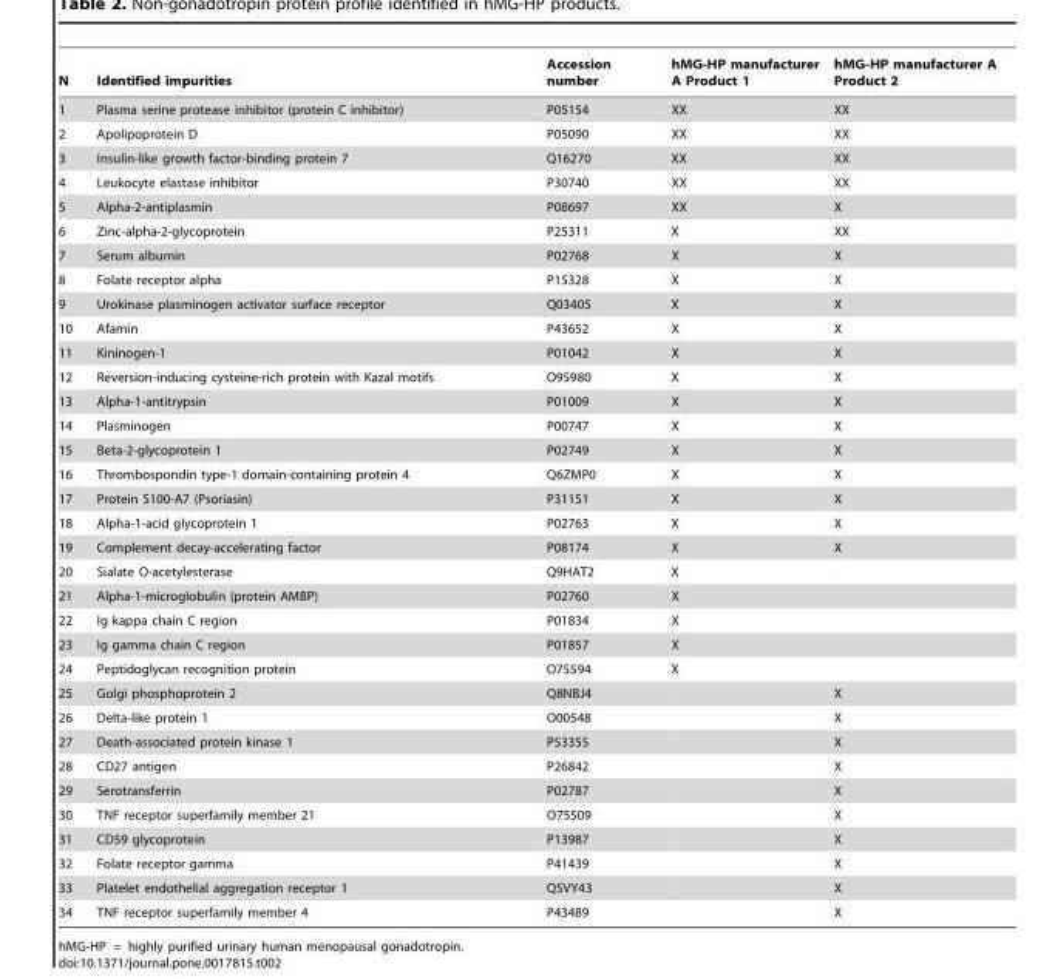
<table><thead><tr><td>N</td><td>Identified impurities</td><td>Accession number</td><td>hMG-HP manufacturer A Product 1</td><td>hMG-HP manufacturer A Product 2</td></tr></thead><tbody><tr><td>1</td><td>Plasma serine protease inhibitor (protein C inhibitor)</td><td>P05154</td><td>XX</td><td>XX</td></tr><tr><td>2</td><td>Apolipoprotein D</td><td>P05090</td><td>XX</td><td>XX</td></tr><tr><td>3</td><td>Insulin-like growth factor-binding protein 7</td><td>Q16270</td><td>XX</td><td>XX</td></tr><tr><td>4</td><td>Leukocyte elastase inhibitor</td><td>P30740</td><td>XX</td><td>XX</td></tr><tr><td>5</td><td>Alpha-2-antiplasmin</td><td>P08697</td><td>XX</td><td>X</td></tr><tr><td>6</td><td>Zinc-alpha-2-glycoprotein</td><td>P25311</td><td>X</td><td>XX</td></tr><tr><td>7</td><td>Serum albumin</td><td>P02768</td><td>X</td><td>X</td></tr><tr><td>8</td><td>Folate receptor alpha</td><td>P15328</td><td>X</td><td>X</td></tr><tr><td>9</td><td>Urokinase plasminogen activator surface receptor</td><td>Q03405</td><td>X</td><td>X</td></tr><tr><td>10</td><td>Afamin</td><td>P43652</td><td>X</td><td>X</td></tr><tr><td>11</td><td>Kininogen-1</td><td>P01042</td><td>X</td><td>X</td></tr><tr><td>12</td><td>Reversion-inducing cysteine-rich protein with Kazal motifs</td><td>O95980</td><td>X</td><td>X</td></tr><tr><td>13</td><td>Alpha-1-antitrypsin</td><td>P01009</td><td>X</td><td>X</td></tr><tr><td>14</td><td>Plasminogen</td><td>P00747</td><td>X</td><td>X</td></tr><tr><td>15</td><td>Beta-2-glycoprotein 1</td><td>P02749</td><td>X</td><td>X</td></tr><tr><td>16</td><td>Thrombospondin type-1 domain-containing protein 4</td><td>Q6ZMP0</td><td>X</td><td>X</td></tr><tr><td>17</td><td>Protein S100-A7 (Psoriasin)</td><td>P31151</td><td>X</td><td>X</td></tr><tr><td>18</td><td>Alpha-1-acid glycoprotein 1</td><td>P02763</td><td>X</td><td>X</td></tr><tr><td>19</td><td>Complement decay-accelerating factor</td><td>P08174</td><td>X</td><td>X</td></tr><tr><td>20</td><td>Sialate O-acetylesterase</td><td>Q9HAT2</td><td>X</td><td></td></tr><tr><td>21</td><td>Alpha-1-microglobulin (protein AMBP)</td><td>P02760</td><td>X</td><td></td></tr><tr><td>22</td><td>Ig kappa chain C region</td><td>P01834</td><td>X</td><td></td></tr><tr><td>23</td><td>Ig gamma chain C region</td><td>P01857</td><td>X</td><td></td></tr><tr><td>24</td><td>Peptidoglycan recognition protein</td><td>O75594</td><td>X</td><td></td></tr><tr><td>25</td><td>Golgi phosphoprotein 2</td><td>Q8NBJ4</td><td></td><td>X</td></tr><tr><td>26</td><td>Delta-like protein 1</td><td>O00548</td><td></td><td>X</td></tr><tr><td>27</td><td>Death-associated protein kinase 1</td><td>P53355</td><td></td><td>X</td></tr><tr><td>28</td><td>CD27 antigen</td><td>P26842</td><td></td><td>X</td></tr><tr><td>29</td><td>Serotransferrin</td><td>P02787</td><td></td><td>X</td></tr><tr><td>30</td><td>TNF receptor superfamily member 21</td><td>O75509</td><td></td><td>X</td></tr><tr><td>31</td><td>CD59 glycoprotein</td><td>P13987</td><td></td><td>X</td></tr><tr><td>32</td><td>Folate receptor gamma</td><td>P41439</td><td></td><td>X</td></tr><tr><td>33</td><td>Platelet endothelial aggregation receptor 1</td><td>Q5VY43</td><td></td><td>X</td></tr><tr><td>34</td><td>TNF receptor superfamily member 4</td><td>P43489</td><td></td><td>X</td></tr></tbody></table>